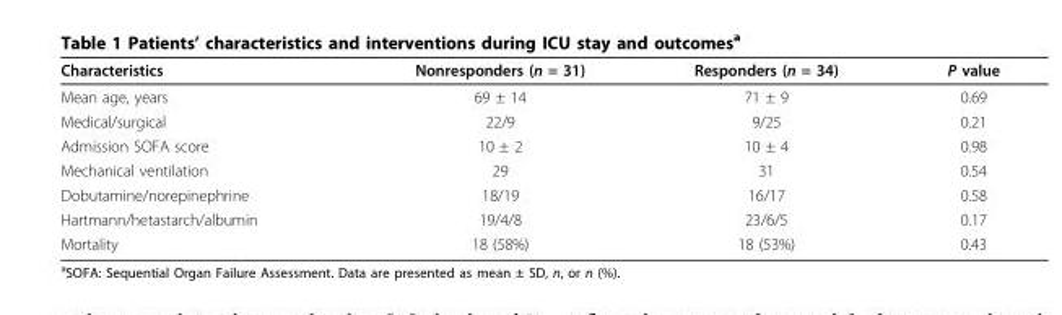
<table><thead><tr><td>Characteristics</td><td>Nonresponders (n = 31)</td><td>Responders (n = 34)</td><td>P value</td></tr></thead><tbody><tr><td>Mean age, years</td><td>69 ± 14</td><td>71 ± 9</td><td>0.69</td></tr><tr><td>Medical/surgical</td><td>22/9</td><td>9/25</td><td>0.21</td></tr><tr><td>Admission SOFA score</td><td>10 ± 2</td><td>10 ± 4</td><td>0.98</td></tr><tr><td>Mechanical ventilation</td><td>29</td><td>31</td><td>0.54</td></tr><tr><td>Dobutamine/norepinephrine</td><td>18/19</td><td>16/17</td><td>0.58</td></tr><tr><td>Hartmann/hetastarch/albumin</td><td>19/4/8</td><td>23/6/5</td><td>0.17</td></tr><tr><td>Mortality</td><td>18 (58%)</td><td>18 (53%)</td><td>0.43</td></tr></tbody></table>